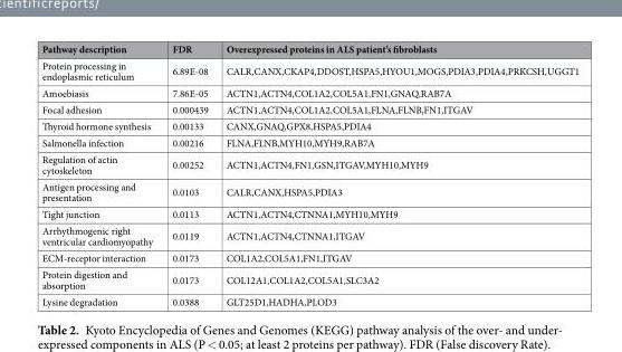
<table><thead><tr><td>Pathway description</td><td>FDR</td><td>Overexpressed proteins in ALS patient’s fibroblasts</td></tr></thead><tbody><tr><td>Protein processing in endoplasmic reticulum</td><td>6.89E-08</td><td>CALR,CANX,CKAP4,DDOST,HSPA5,HYOU1,MOGS,PDIA3,PDIA4,PRKCSH,UGGT1</td></tr><tr><td>Amoebiasis</td><td>7.86E-05</td><td>ACTN1,ACTN4,COL1A2,COL5A1,FN1,GNAQ,RAB7A</td></tr><tr><td>Focal adhesion</td><td>0.000439</td><td>ACTN1,ACTN4,COL1A2,COL5A1,FLNA,FLNB,FN1,ITGAV</td></tr><tr><td>Thyroid hormone synthesis</td><td>0.00133</td><td>CANX,GNAQ,GPX8,HSPA5,PDIA4</td></tr><tr><td>Salmonella infection</td><td>0.00216</td><td>FLNA,FLNB,MYH10,MYH9,RAB7A</td></tr><tr><td>Regulation of actin cytoskeleton</td><td>0.00252</td><td>ACTN1,ACTN4,FN1,GSN,ITGAV,MYH10,MYH9</td></tr><tr><td>Antigen processing and presentation</td><td>0.0103</td><td>CALR,CANX,HSPA5,PDIA3</td></tr><tr><td>Tight junction</td><td>0.0113</td><td>ACTN1,ACTN4,CTNNA1,MYH10,MYH9</td></tr><tr><td>Arrhythmogenic right ventricular cardiomyopathy</td><td>0.0119</td><td>ACTN1,ACTN4,CTNNA1,ITGAV</td></tr><tr><td>ECM-receptor interaction</td><td>0.0173</td><td>COL1A2,COL5A1,FN1,ITGAV</td></tr><tr><td>Protein digestion and absorption</td><td>0.0173</td><td>COL12A1,COL1A2,COL5A1,SLC3A2</td></tr><tr><td>Lysine degradation</td><td>0.0388</td><td>GLT25D1,HADHA,PLOD3</td></tr></tbody></table>